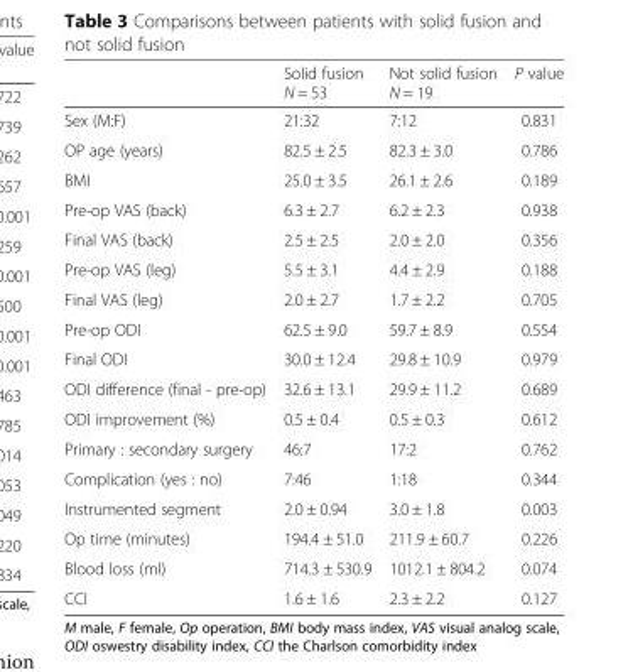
<table><thead><tr><td></td><td>Solid fusion N = 53</td><td>Not solid fusion N = 19</td><td>P value</td></tr></thead><tbody><tr><td>Sex (M:F)</td><td>21:32</td><td>7:12</td><td>0.831</td></tr><tr><td>OP age (years)</td><td>82.5 ± 2.5</td><td>82.3 ± 3.0</td><td>0.786</td></tr><tr><td>BMI</td><td>25.0 ± 3.5</td><td>26.1 ± 2.6</td><td>0.189</td></tr><tr><td>Pre-op VAS (back)</td><td>6.3 ± 2.7</td><td>6.2 ± 2.3</td><td>0.938</td></tr><tr><td>Final VAS (back)</td><td>2.5 ± 2.5</td><td>2.0 ± 2.0</td><td>0.356</td></tr><tr><td>Pre-op VAS (leg)</td><td>5.5 ± 3.1</td><td>4.4 ± 2.9</td><td>0.188</td></tr><tr><td>Final VAS (leg)</td><td>2.0 ± 2.7</td><td>1.7 ± 2.2</td><td>0.705</td></tr><tr><td>Pre-op ODI</td><td>62.5 ± 9.0</td><td>59.7 ± 8.9</td><td>0.554</td></tr><tr><td>Final ODI</td><td>30.0 ± 12.4</td><td>29.8 ± 10.9</td><td>0.979</td></tr><tr><td>ODI difference (final - pre-op)</td><td>32.6 ± 13.1</td><td>29.9 ± 11.2</td><td>0.689</td></tr><tr><td>ODI improvement (%)</td><td>0.5 ± 0.4</td><td>0.5 ± 0.3</td><td>0.612</td></tr><tr><td>Primary : secondary surgery</td><td>46:7</td><td>17:2</td><td>0.762</td></tr><tr><td>Complication (yes : no)</td><td>7:46</td><td>1:18</td><td>0.344</td></tr><tr><td>Instrumented segment</td><td>2.0 ± 0.94</td><td>3.0 ± 1.8</td><td>0.003</td></tr><tr><td>Op time (minutes)</td><td>194.4 ± 51.0</td><td>211.9 ± 60.7</td><td>0.226</td></tr><tr><td>Blood loss (ml)</td><td>714.3 ± 530.9</td><td>1012.1 ± 804.2</td><td>0.074</td></tr><tr><td>CCI</td><td>1.6 ± 1.6</td><td>2.3 ± 2.2</td><td>0.127</td></tr></tbody></table>